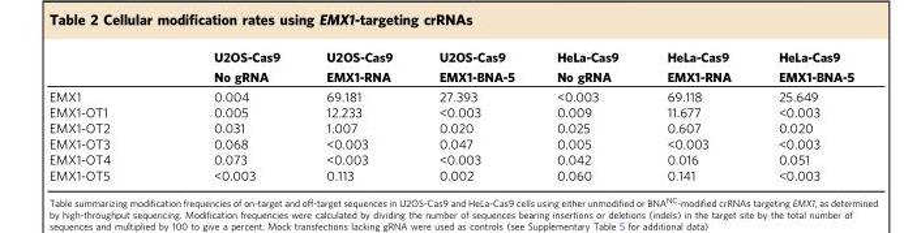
<table><thead><tr><td rowspan="2"></td><td rowspan="2">U2OS-Cas9 No gRNA</td><td rowspan="2">U2OS-Cas9 EMX1-RNA</td><td rowspan="2">U2OS-Cas9 EMX1-BNA-5</td><td rowspan="2">HeLa-Cas9 No gRNA</td><td rowspan="2">HeLa-Cas9 EMX1-RNA</td><td rowspan="2">HeLa-Cas9 EMX1-BNA-5</td></tr><tr></tr></thead><tbody><tr><td>EMX1</td><td>0.004</td><td>69.181</td><td>27.393</td><td>&lt;0.003</td><td>69.118</td><td>25.649</td></tr><tr><td>EMX1-OT1</td><td>0.005</td><td>12.233</td><td>&lt;0.003</td><td>0.009</td><td>11.677</td><td>&lt;0.003</td></tr><tr><td>EMX1-OT2</td><td>0.031</td><td>1.007</td><td>0.020</td><td>0.025</td><td>0.607</td><td>0.020</td></tr><tr><td>EMX1-OT3</td><td>0.068</td><td>&lt;0.003</td><td>0.047</td><td>0.005</td><td>&lt;0.003</td><td>&lt;0.003</td></tr><tr><td>EMX1-OT4</td><td>0.073</td><td>&lt;0.003</td><td>&lt;0.003</td><td>0.042</td><td>0.016</td><td>0.051</td></tr><tr><td>EMX1-OT5</td><td>&lt;0.003</td><td>0.113</td><td>0.002</td><td>0.060</td><td>0.141</td><td>&lt;0.003</td></tr></tbody></table>